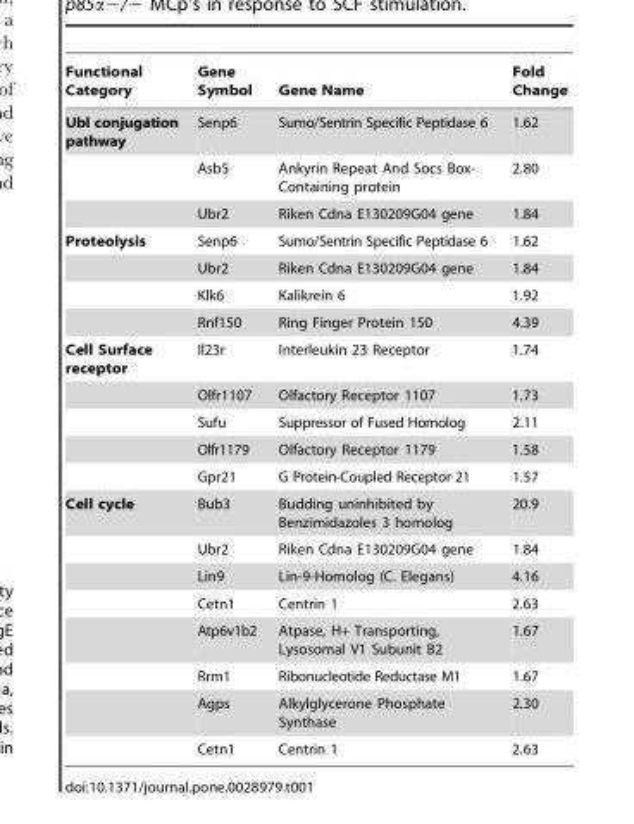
<table><thead><tr><td>Functional Category</td><td>Gene Symbol</td><td>Gene Name</td><td>Fold Change</td></tr></thead><tbody><tr><td rowspan="3">Ubl conjugation pathway</td><td>Senp6</td><td>Sumo/Sentrin Specific Peptidase 6</td><td>1.62</td></tr><tr><td>Asb5</td><td>Ankyrin Repeat And Socs Box- Containing protein</td><td>2.80</td></tr><tr><td>Ubr2</td><td>Riken Cdna E130209G04 gene</td><td>1.84</td></tr><tr><td rowspan="4">Proteolysis</td><td>Senp6</td><td>Sumo/Sentrin Specific Peptidase 6</td><td>1.62</td></tr><tr><td>Ubr2</td><td>Riken Cdna E130209G04 gene</td><td>1.84</td></tr><tr><td>Klk6</td><td>Kalikrein 6</td><td>1.92</td></tr><tr><td>Rnf150</td><td>Ring Finger Protein 150</td><td>4.39</td></tr><tr><td rowspan="5">Cell Surface receptor</td><td>Il23r</td><td>Interleukin 23 Receptor</td><td>1.74</td></tr><tr><td>Olfr1107</td><td>Olfactory Receptor 1107</td><td>1.73</td></tr><tr><td>Sufu</td><td>Suppressor of Fused Homolog</td><td>2.11</td></tr><tr><td>Olfr1179</td><td>Olfactory Receptor 1179</td><td>1.58</td></tr><tr><td>Gpr21</td><td>G Protein-Coupled Receptor 21</td><td>1.57</td></tr><tr><td rowspan="8">Cell cycle</td><td>Bub3</td><td>Budding uninhibited by Benzimidazoles 3 homolog</td><td>20.9</td></tr><tr><td>Ubr2</td><td>Riken Cdna E130209G04 gene</td><td>1.84</td></tr><tr><td>Lin9</td><td>Lin-9-Homolog (C. Elegans)</td><td>4.16</td></tr><tr><td>Cetn1</td><td>Centrin 1</td><td>2.63</td></tr><tr><td>Atp6v1b2</td><td>Atpase, H+ Transporting, Lysosomal V1 Subunit B2</td><td>1.67</td></tr><tr><td>Rrm1</td><td>Ribonucleotide Reductase M1</td><td>1.67</td></tr><tr><td>Agps</td><td>Alkylglycerone Phosphate Synthase</td><td>2.30</td></tr><tr><td>Cetn1</td><td>Centrin 1</td><td>2.63</td></tr></tbody></table>